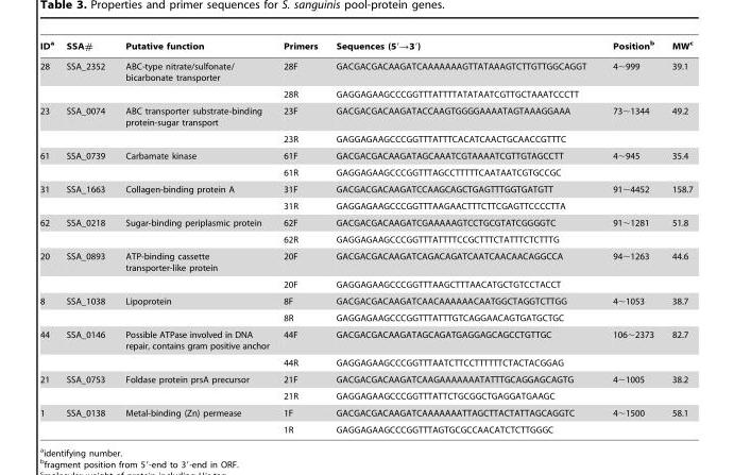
<table><thead><tr><td>ID<sup>a</sup></td><td>SSA#</td><td>Putative function</td><td>Primers</td><td>Sequences (5′→3′)</td><td>Position<sup>b</sup></td><td>MW<sup>c</sup></td></tr></thead><tbody><tr><td rowspan="2">28</td><td>SSA_2352</td><td>ABC-type nitrate/sulfonate/ bicarbonate transporter</td><td>28F</td><td>GACGACGACAAGATCAAAAAAAGTTATAAAGTCTTGTTGGCAGGT</td><td>4∼999</td><td>39.1</td></tr><tr><td></td><td></td><td>28R</td><td>GAGGAGAAGCCCGGTTTATTTTATATAATCGTTGCTAAATCCCTT</td><td></td><td></td></tr><tr><td rowspan="2">23</td><td>SSA_0074</td><td>ABC transporter substrate-binding protein-sugar transport</td><td>23F</td><td>GACGACGACAAGATACCAAGTGGGGAAAATAGTAAAGGAAA</td><td>73∼1344</td><td>49.2</td></tr><tr><td></td><td></td><td>23R</td><td>GAGGAGAAGCCCGGTTTATTTCACATCAACTGCAACCGTTTC</td><td></td><td></td></tr><tr><td rowspan="2">61</td><td>SSA_0739</td><td>Carbamate kinase</td><td>61F</td><td>GACGACGACAAGATAGCAAATCGTAAAATCGTTGTAGCCTT</td><td>4∼945</td><td>35.4</td></tr><tr><td></td><td></td><td>61R</td><td>GAGGAGAAGCCCGGTTTAGCCTTTTTCAATAATCGTGCCGC</td><td></td><td></td></tr><tr><td rowspan="2">31</td><td>SSA_1663</td><td>Collagen-binding protein A</td><td>31F</td><td>GACGACGACAAGATCCAAGCAGCTGAGTTTGGTGATGTT</td><td>91∼4452</td><td>158.7</td></tr><tr><td></td><td></td><td>31R</td><td>GAGGAGAAGCCCGGTTTAAGAACTTTCTTCGAGTTCCCCTTA</td><td></td><td></td></tr><tr><td rowspan="2">62</td><td>SSA_0218</td><td>Sugar-binding periplasmic protein</td><td>62F</td><td>GACGACGACAAGATCGAAAAAGTCCTGCGTATCGGGGTC</td><td>91∼1281</td><td>51.8</td></tr><tr><td></td><td></td><td>62R</td><td>GAGGAGAAGCCCGGTTTATTTTCCGCTTTCTATTTCTCTTTG</td><td></td><td></td></tr><tr><td rowspan="2">20</td><td>SSA_0893</td><td>ATP-binding cassette transporter-like protein</td><td>20F</td><td>GACGACGACAAGATCAGACAGATCAATCAACAACAGGCCA</td><td>94∼1263</td><td>44.6</td></tr><tr><td></td><td></td><td>20F</td><td>GAGGAGAAGCCCGGTTTAAGCTTTAACATGCTGTCCTACCT</td><td></td><td></td></tr><tr><td rowspan="2">8</td><td>SSA_1038</td><td>Lipoprotein</td><td>8F</td><td>GACGACGACAAGATCAACAAAAAACAATGGCTAGGTCTTGG</td><td>4∼1053</td><td>38.7</td></tr><tr><td></td><td></td><td>8R</td><td>GAGGAGAAGCCCGGTTTATTTGTCAGGAACAGTGATGCTGC</td><td></td><td></td></tr><tr><td rowspan="2">44</td><td>SSA_0146</td><td>Possible ATPase involved in DNA repair, contains gram positive anchor</td><td>44F</td><td>GACGACGACAAGATAGCAGATGAGGAGCAGCCTGTTGC</td><td>106∼2373</td><td>82.7</td></tr><tr><td></td><td></td><td>44R</td><td>GAGGAGAAGCCCGGTTTAATCTTCCTTTTTTCTACTACGGAG</td><td></td><td></td></tr><tr><td rowspan="2">21</td><td>SSA_0753</td><td>Foldase protein prsA precursor</td><td>21F</td><td>GACGACGACAAGATCAAGAAAAAAATATTTGCAGGAGCAGTG</td><td>4∼1005</td><td>38.2</td></tr><tr><td></td><td></td><td>21R</td><td>GAGGAGAAGCCCGGTTTATTCTGCGGCTGAGGATGAAGC</td><td></td><td></td></tr><tr><td rowspan="2">1</td><td>SSA_0138</td><td>Metal-binding (Zn) permease</td><td>1F</td><td>GACGACGACAAGATCAAAAAAATTAGCTTACTATTAGCAGGTC</td><td>4∼1500</td><td>58.1</td></tr><tr><td></td><td></td><td>1R</td><td>GAGGAGAAGCCCGGTTTAGTGCGCCAACATCTCTTGGGC</td><td></td><td></td></tr></tbody></table>